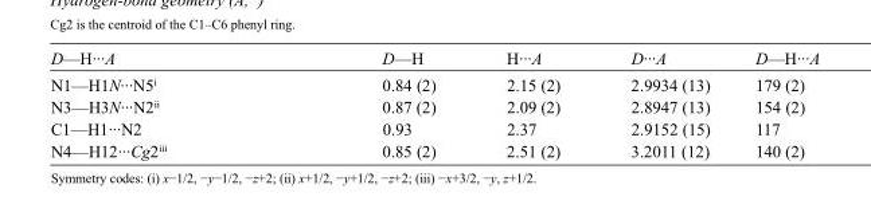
<table><tbody><tr><td>D—H···A</td><td>D—H</td><td>H···A</td><td>D···A</td><td>D—H···A</td></tr><tr><td>N1—H1N···N5<sup>i</sup></td><td>0.84 (2)</td><td>2.15 (2)</td><td>2.9934 (13)</td><td>179 (2)</td></tr><tr><td>N3—H3N···N2<sup>ii</sup></td><td>0.87 (2)</td><td>2.09 (2)</td><td>2.8947 (13)</td><td>154 (2)</td></tr><tr><td>C1—H1···N2</td><td>0.93</td><td>2.37</td><td>2.9152 (15)</td><td>117</td></tr><tr><td>N4—H12···Cg2<sup>iii</sup></td><td>0.85 (2)</td><td>2.51 (2)</td><td>3.2011 (12)</td><td>140 (2)</td></tr></tbody></table>